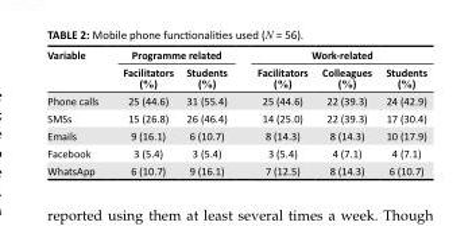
<table><thead><tr><td rowspan="2">Variable</td><td colspan="2">Programme related</td><td colspan="3">Work-related</td></tr><tr><td>Facilitators (%)</td><td>Students (%)</td><td>Facilitators (%)</td><td>Colleagues (%)</td><td>Students (%)</td></tr></thead><tbody><tr><td>Phone calls</td><td>25 (44.6)</td><td>31 (55.4)</td><td>25 (44.6)</td><td>22 (39.3)</td><td>24 (42.9)</td></tr><tr><td>SMSs</td><td>15 (26.8)</td><td>26 (46.4)</td><td>14 (25.0)</td><td>22 (39.3)</td><td>17 (30.4)</td></tr><tr><td>Emails</td><td>9 (16.1)</td><td>6 (10.7)</td><td>8 (14.3)</td><td>8 (14.3)</td><td>10 (17.9)</td></tr><tr><td>Facebook</td><td>3 (5.4)</td><td>3 (5.4)</td><td>3 (5.4)</td><td>4 (7.1)</td><td>4 (7.1)</td></tr><tr><td>WhatsApp</td><td>6 (10.7)</td><td>9 (16.1)</td><td>7 (12.5)</td><td>8 (14.3)</td><td>6 (10.7)</td></tr></tbody></table>